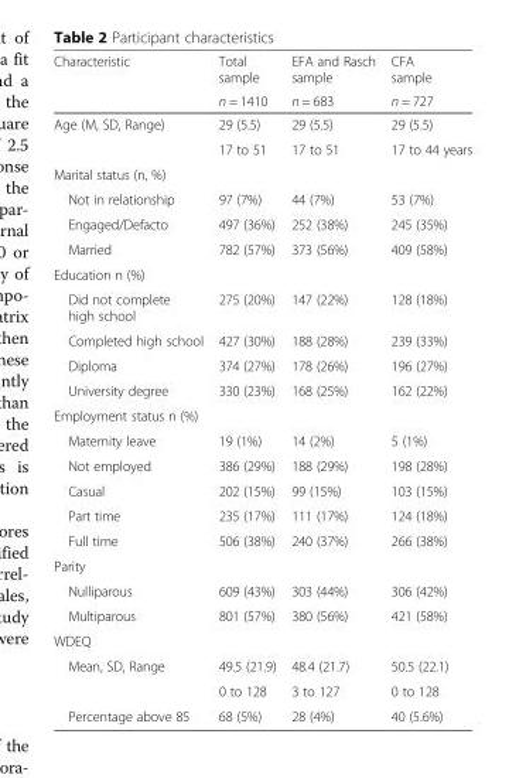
<table><thead><tr><td rowspan="2">Characteristic</td><td rowspan="2">Total sample n = 1410</td><td rowspan="2">EFA and Rasch sample n = 683</td><td rowspan="2">CFA sample n = 727</td></tr><tr></tr></thead><tbody><tr><td rowspan="2">Age (M, SD, Range)</td><td>29 (5.5)</td><td>29 (5.5)</td><td>29 (5.5)</td></tr><tr><td>17 to 51</td><td>17 to 51</td><td>17 to 44 years</td></tr><tr><td colspan="4">Marital status (n, %)</td></tr><tr><td>Not in relationship</td><td>97 (7%)</td><td>44 (7%)</td><td>53 (7%)</td></tr><tr><td>Engaged/Defacto</td><td>497 (36%)</td><td>252 (38%)</td><td>245 (35%)</td></tr><tr><td>Married</td><td>782 (57%)</td><td>373 (56%)</td><td>409 (58%)</td></tr><tr><td colspan="4">Education n (%)</td></tr><tr><td>Did not complete high school</td><td>275 (20%)</td><td>147 (22%)</td><td>128 (18%)</td></tr><tr><td>Completed high school</td><td>427 (30%)</td><td>188 (28%)</td><td>239 (33%)</td></tr><tr><td>Diploma</td><td>374 (27%)</td><td>178 (26%)</td><td>196 (27%)</td></tr><tr><td>University degree</td><td>330 (23%)</td><td>168 (25%)</td><td>162 (22%)</td></tr><tr><td colspan="4">Employment status n (%)</td></tr><tr><td>Maternity leave</td><td>19 (1%)</td><td>14 (2%)</td><td>5 (1%)</td></tr><tr><td>Not employed</td><td>386 (29%)</td><td>188 (29%)</td><td>198 (28%)</td></tr><tr><td>Casual</td><td>202 (15%)</td><td>99 (15%)</td><td>103 (15%)</td></tr><tr><td>Part time</td><td>235 (17%)</td><td>111 (17%)</td><td>124 (18%)</td></tr><tr><td>Full time</td><td>506 (38%)</td><td>240 (37%)</td><td>266 (38%)</td></tr><tr><td colspan="4">Parity</td></tr><tr><td>Nulliparous</td><td>609 (43%)</td><td>303 (44%)</td><td>306 (42%)</td></tr><tr><td>Multiparous</td><td>801 (57%)</td><td>380 (56%)</td><td>421 (58%)</td></tr><tr><td colspan="4">WDEQ</td></tr><tr><td rowspan="2">Mean, SD, Range</td><td>49.5 (21.9)</td><td>48.4 (21.7)</td><td>50.5 (22.1)</td></tr><tr><td>0 to 128</td><td>3 to 127</td><td>0 to 128</td></tr><tr><td>Percentage above 85</td><td>68 (5%)</td><td>28 (4%)</td><td>40 (5.6%)</td></tr></tbody></table>